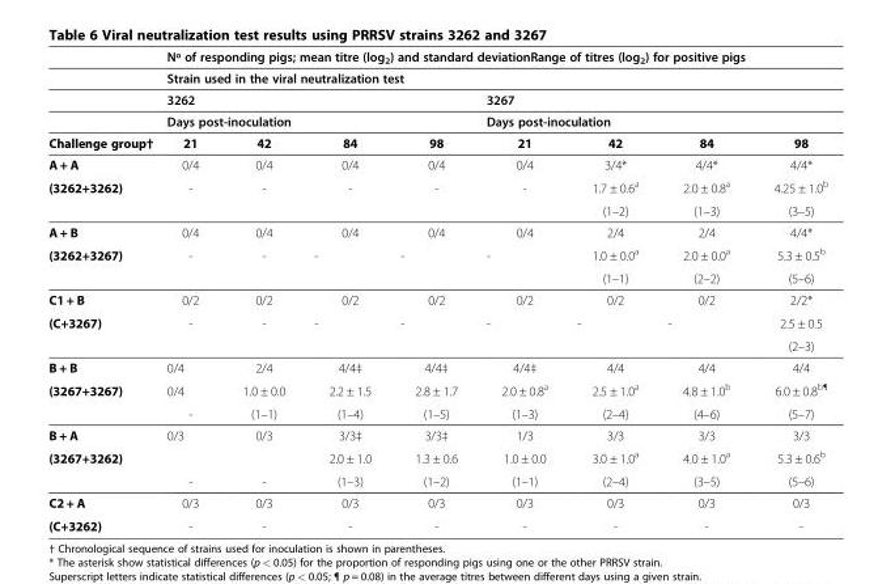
<table><thead><tr><td rowspan="5">Challenge group†</td><td rowspan="2" colspan="8">Nº of responding pigs; mean titre (log<sub>2</sub>) and standard deviationRange of titres (log<sub>2</sub>) for positive pigs Strain used in the viral neutralization test</td></tr><tr></tr><tr><td rowspan="2" colspan="4">3262 Days post-inoculation</td><td rowspan="2" colspan="4">3267 Days post-inoculation</td></tr><tr></tr><tr><td>21</td><td>42</td><td>84</td><td>98</td><td>21</td><td>42</td><td>84</td><td>98</td></tr></thead><tbody><tr><td>A + A</td><td>0/4</td><td>0/4</td><td>0/4</td><td>0/4</td><td>0/4</td><td>3/4*</td><td>4/4*</td><td>4/4*</td></tr><tr><td rowspan="2">(3262+3262)</td><td>-</td><td>-</td><td>-</td><td>-</td><td>-</td><td>1.7 ± 0.6<sup>a</sup></td><td>2.0 ± 0.8<sup>a</sup></td><td>4.25 ± 1.0<sup>b</sup></td></tr><tr><td></td><td></td><td></td><td></td><td></td><td>(1–2)</td><td>(1–3)</td><td>(3–5)</td></tr><tr><td>A + B</td><td>0/4</td><td>0/4</td><td>0/4</td><td>0/4</td><td>0/4</td><td>2/4</td><td>2/4</td><td>4/4*</td></tr><tr><td rowspan="2">(3262+3267)</td><td>-</td><td>-</td><td rowspan="2">-</td><td rowspan="2">-</td><td rowspan="2">-</td><td>1.0 ± 0.0<sup>a</sup></td><td>2.0 ± 0.0<sup>a</sup></td><td>5.3 ± 0.5<sup>b</sup></td></tr><tr><td></td><td></td><td>(1–1)</td><td>(2–2)</td><td>(5–6)</td></tr><tr><td>C1 + B</td><td>0/2</td><td>0/2</td><td>0/2</td><td>0/2</td><td>0/2</td><td>0/2</td><td>0/2</td><td>2/2*</td></tr><tr><td rowspan="2">(C+3267)</td><td>-</td><td>-</td><td rowspan="2">-</td><td rowspan="2">-</td><td rowspan="2">-</td><td rowspan="2">-</td><td rowspan="2">-</td><td>2.5 ± 0.5</td></tr><tr><td></td><td></td><td>(2–3)</td></tr><tr><td>B + B</td><td>0/4</td><td>2/4</td><td>4/4‡</td><td>4/4‡</td><td>4/4‡</td><td>4/4</td><td>4/4</td><td>4/4</td></tr><tr><td rowspan="2">(3267+3267)</td><td>0/4</td><td>1.0 ± 0.0</td><td>2.2 ± 1.5</td><td>2.8 ± 1.7</td><td>2.0 ± 0.8<sup>a</sup></td><td>2.5 ± 1.0<sup>a</sup></td><td>4.8 ± 1.0<sup>b</sup></td><td>6.0 ± 0.8<sup>b¶</sup></td></tr><tr><td>-</td><td>(1–1)</td><td>(1–4)</td><td>(1–5)</td><td>(1–3)</td><td>(2–4)</td><td>(4–6)</td><td>(5–7)</td></tr><tr><td>B + A</td><td>0/3</td><td>0/3</td><td>3/3‡</td><td>3/3‡</td><td>1/3</td><td>3/3</td><td>3/3</td><td>3/3</td></tr><tr><td rowspan="2">(3267+3262)</td><td></td><td></td><td>2.0 ± 1.0</td><td>1.3 ± 0.6</td><td>1.0 ± 0.0</td><td>3.0 ± 1.0<sup>a</sup></td><td>4.0 ± 1.0<sup>a</sup></td><td>5.3 ± 0.6<sup>b</sup></td></tr><tr><td>-</td><td>-</td><td>(1–3)</td><td>(1–2)</td><td>(1–1)</td><td>(2–4)</td><td>(3–5)</td><td>(5–6)</td></tr><tr><td>C2 + A</td><td>0/3</td><td>0/3</td><td>0/3</td><td>0/3</td><td>0/3</td><td>0/3</td><td>0/3</td><td>0/3</td></tr><tr><td>(C+3262)</td><td>-</td><td>-</td><td>-</td><td>-</td><td>-</td><td>-</td><td>-</td><td>-</td></tr></tbody></table>